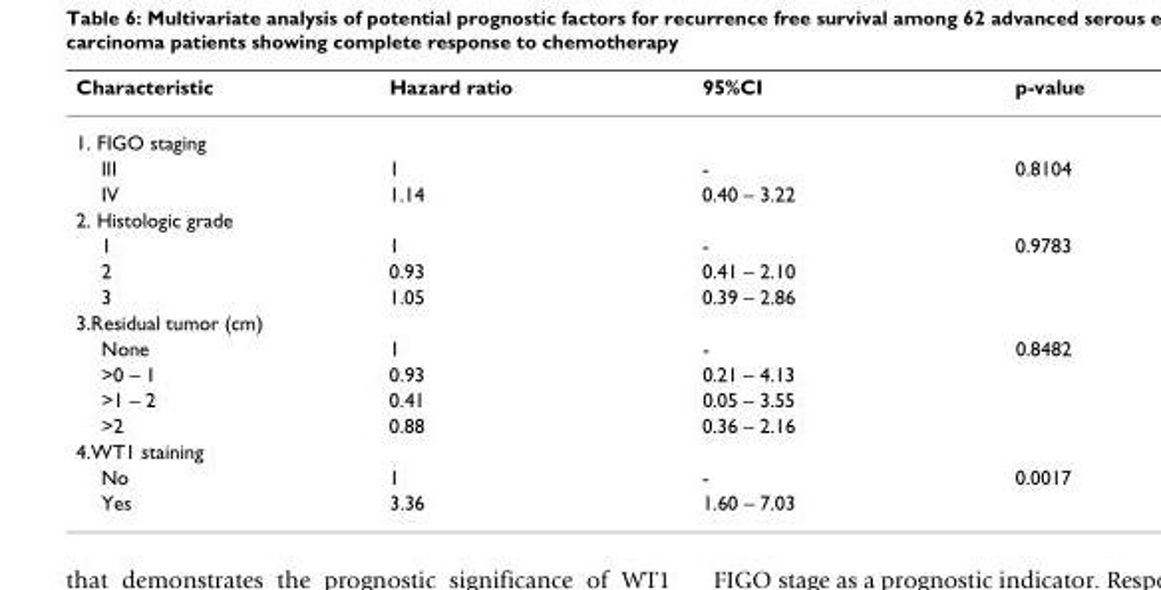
<table><thead><tr><td>Characteristic</td><td>Hazard ratio</td><td>95%CI</td><td>p-value</td></tr></thead><tbody><tr><td colspan="4">1. FIGO staging</td></tr><tr><td>III</td><td>1</td><td>-</td><td>0.8104</td></tr><tr><td>IV</td><td>1.14</td><td>0.40 – 3.22</td><td></td></tr><tr><td colspan="4">2. Histologic grade</td></tr><tr><td>1</td><td>1</td><td>-</td><td>0.9783</td></tr><tr><td>2</td><td>0.93</td><td>0.41 – 2.10</td><td></td></tr><tr><td>3</td><td>1.05</td><td>0.39 – 2.86</td><td></td></tr><tr><td colspan="4">3.Residual tumor (cm)</td></tr><tr><td>None</td><td>1</td><td>-</td><td>0.8482</td></tr><tr><td>&gt;0 – 1</td><td>0.93</td><td>0.21 – 4.13</td><td></td></tr><tr><td>&gt;1 – 2</td><td>0.41</td><td>0.05 – 3.55</td><td></td></tr><tr><td>&gt;2</td><td>0.88</td><td>0.36 – 2.16</td><td></td></tr><tr><td colspan="4">4.WT1 staining</td></tr><tr><td>No</td><td>1</td><td>-</td><td>0.0017</td></tr><tr><td>Yes</td><td>3.36</td><td>1.60 – 7.03</td><td></td></tr></tbody></table>